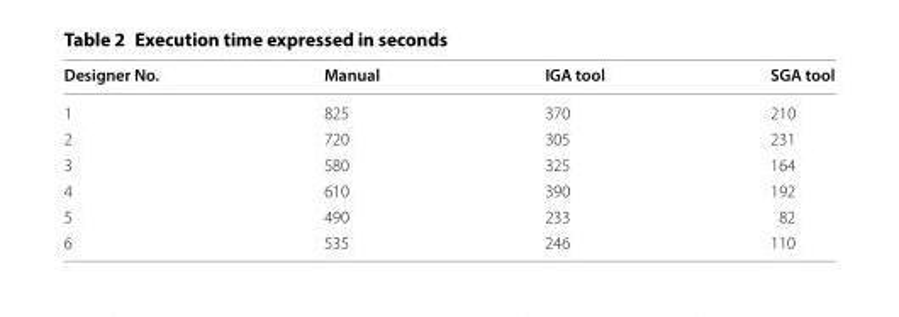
<table><thead><tr><td>Designer No.</td><td>Manual</td><td>IGA tool</td><td>SGA tool</td></tr></thead><tbody><tr><td>1</td><td>825</td><td>370</td><td>210</td></tr><tr><td>2</td><td>720</td><td>305</td><td>231</td></tr><tr><td>3</td><td>580</td><td>325</td><td>164</td></tr><tr><td>4</td><td>610</td><td>390</td><td>192</td></tr><tr><td>5</td><td>490</td><td>233</td><td>82</td></tr><tr><td>6</td><td>535</td><td>246</td><td>110</td></tr></tbody></table>